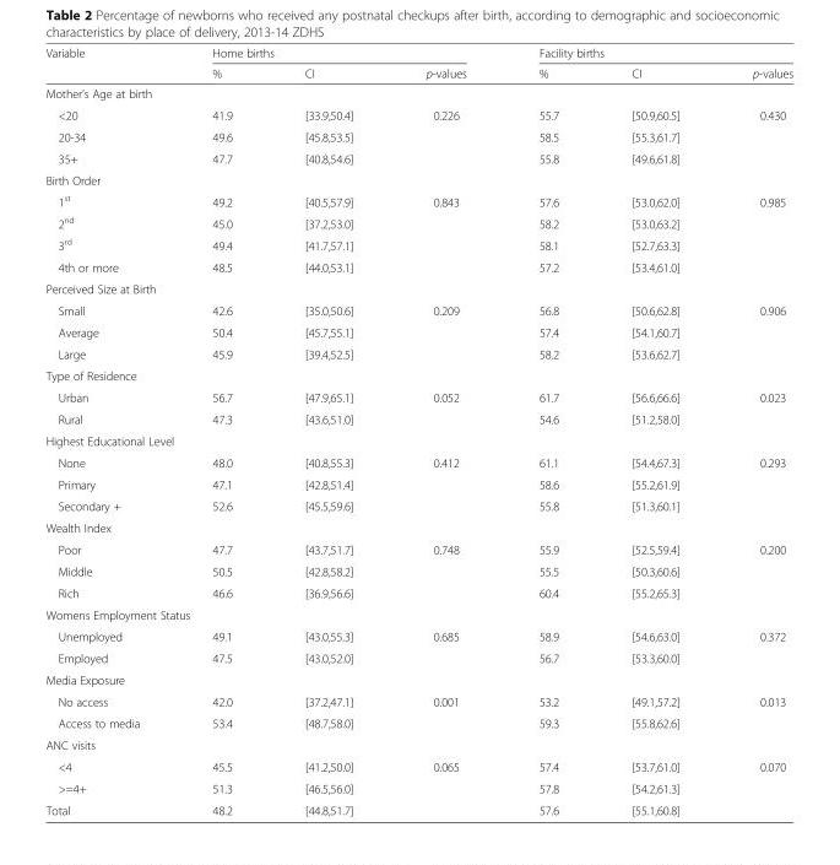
<table><thead><tr><td rowspan="2">Variable</td><td colspan="3">Home births</td><td colspan="3">Facility births</td></tr><tr><td>%</td><td>CI</td><td>p-values</td><td>%</td><td>CI</td><td>p-values</td></tr></thead><tbody><tr><td colspan="7">Mother’s Age at birth</td></tr><tr><td>&lt;20</td><td>41.9</td><td>[33.9,50.4]</td><td rowspan="3">0.226</td><td>55.7</td><td>[50.9,60.5]</td><td rowspan="3">0.430</td></tr><tr><td>20-34</td><td>49.6</td><td>[45.8,53.5]</td><td>58.5</td><td>[55.3,61.7]</td></tr><tr><td>35+</td><td>47.7</td><td>[40.8,54.6]</td><td>55.8</td><td>[49.6,61.8]</td></tr><tr><td colspan="7">Birth Order</td></tr><tr><td>1<sup>st</sup></td><td>49.2</td><td>[40.5,57.9]</td><td rowspan="4">0.843</td><td>57.6</td><td>[53.0,62.0]</td><td rowspan="4">0.985</td></tr><tr><td>2<sup>nd</sup></td><td>45.0</td><td>[37.2,53.0]</td><td>58.2</td><td>[53.0,63.2]</td></tr><tr><td>3<sup>rd</sup></td><td>49.4</td><td>[41.7,57.1]</td><td>58.1</td><td>[52.7,63.3]</td></tr><tr><td>4th or more</td><td>48.5</td><td>[44.0,53.1]</td><td>57.2</td><td>[53.4,61.0]</td></tr><tr><td colspan="7">Perceived Size at Birth</td></tr><tr><td>Small</td><td>42.6</td><td>[35.0,50.6]</td><td rowspan="3">0.209</td><td>56.8</td><td>[50.6,62.8]</td><td rowspan="3">0.906</td></tr><tr><td>Average</td><td>50.4</td><td>[45.7,55.1]</td><td>57.4</td><td>[54.1,60.7]</td></tr><tr><td>Large</td><td>45.9</td><td>[39.4,52.5]</td><td>58.2</td><td>[53.6,62.7]</td></tr><tr><td colspan="7">Type of Residence</td></tr><tr><td>Urban</td><td>56.7</td><td>[47.9,65.1]</td><td rowspan="2">0.052</td><td>61.7</td><td>[56.6,66.6]</td><td rowspan="2">0.023</td></tr><tr><td>Rural</td><td>47.3</td><td>[43.6,51.0]</td><td>54.6</td><td>[51.2,58.0]</td></tr><tr><td colspan="7">Highest Educational Level</td></tr><tr><td>None</td><td>48.0</td><td>[40.8,55.3]</td><td rowspan="3">0.412</td><td>61.1</td><td>[54.4,67.3]</td><td rowspan="3">0.293</td></tr><tr><td>Primary</td><td>47.1</td><td>[42.8,51.4]</td><td>58.6</td><td>[55.2,61.9]</td></tr><tr><td>Secondary +</td><td>52.6</td><td>[45.5,59.6]</td><td>55.8</td><td>[51.3,60.1]</td></tr><tr><td colspan="7">Wealth Index</td></tr><tr><td>Poor</td><td>47.7</td><td>[43.7,51.7]</td><td rowspan="3">0.748</td><td>55.9</td><td>[52.5,59.4]</td><td rowspan="3">0.200</td></tr><tr><td>Middle</td><td>50.5</td><td>[42.8,58.2]</td><td>55.5</td><td>[50.3,60.6]</td></tr><tr><td>Rich</td><td>46.6</td><td>[36.9,56.6]</td><td>60.4</td><td>[55.2,65.3]</td></tr><tr><td colspan="7">Womens Employment Status</td></tr><tr><td>Unemployed</td><td>49.1</td><td>[43.0,55.3]</td><td rowspan="2">0.685</td><td>58.9</td><td>[54.6,63.0]</td><td rowspan="2">0.372</td></tr><tr><td>Employed</td><td>47.5</td><td>[43.0,52.0]</td><td>56.7</td><td>[53.3,60.0]</td></tr><tr><td colspan="7">Media Exposure</td></tr><tr><td>No access</td><td>42.0</td><td>[37.2,47.1]</td><td rowspan="2">0.001</td><td>53.2</td><td>[49.1,57.2]</td><td rowspan="2">0.013</td></tr><tr><td>Access to media</td><td>53.4</td><td>[48.7,58.0]</td><td>59.3</td><td>[55.8,62.6]</td></tr><tr><td colspan="7">ANC visits</td></tr><tr><td>&lt;4</td><td>45.5</td><td>[41.2,50.0]</td><td rowspan="2">0.065</td><td>57.4</td><td>[53.7,61.0]</td><td rowspan="2">0.070</td></tr><tr><td>&gt;=4+</td><td>51.3</td><td>[46.5,56.0]</td><td>57.8</td><td>[54.2,61.3]</td></tr><tr><td>Total</td><td>48.2</td><td>[44.8,51.7]</td><td></td><td>57.6</td><td>[55.1,60.8]</td><td></td></tr></tbody></table>